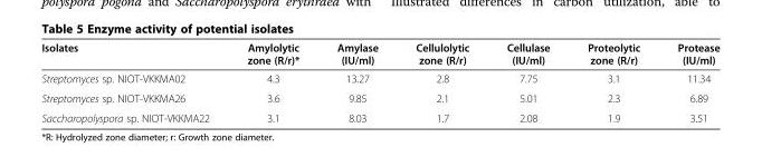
<table><thead><tr><td>Isolates</td><td>Amylolytic zone (R/r)*</td><td>Amylase (IU/ml)</td><td>Cellulolytic zone (R/r)</td><td>Cellulase (IU/ml)</td><td>Proteolytic zone (R/r)</td><td>Protease (IU/ml)</td></tr></thead><tbody><tr><td>Streptomyces sp. NIOT-VKKMA02</td><td>4.3</td><td>13.27</td><td>2.8</td><td>7.75</td><td>3.1</td><td>11.34</td></tr><tr><td>Streptomyces sp. NIOT-VKKMA26</td><td>3.6</td><td>9.85</td><td>2.1</td><td>5.01</td><td>2.3</td><td>6.89</td></tr><tr><td>Saccharopolyspora sp. NIOT-VKKMA22</td><td>3.1</td><td>8.03</td><td>1.7</td><td>2.08</td><td>1.9</td><td>3.51</td></tr></tbody></table>